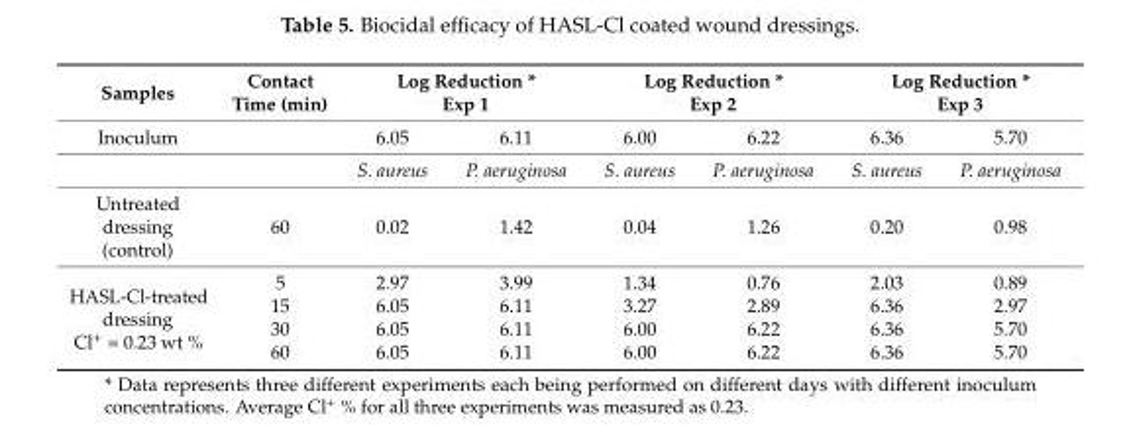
<table><thead><tr><td rowspan="2">Samples Inoculum</td><td rowspan="2">Contact Time (min)</td><td colspan="2">Log Reduction * Exp 1</td><td colspan="2">Log Reduction * Exp 2</td><td colspan="2">Log Reduction * Exp 3</td></tr><tr><td>6.05</td><td>6.11</td><td>6.00</td><td>6.22</td><td>6.36</td><td>5.70</td></tr></thead><tbody><tr><td></td><td></td><td>S. aureus</td><td>P. aeruginosa</td><td>S. aureus</td><td>P. aeruginosa</td><td>S. aureus</td><td>P. aeruginosa</td></tr><tr><td>Untreated dressing (control)</td><td>60</td><td>0.02</td><td>1.42</td><td>0.04</td><td>1.26</td><td>0.20</td><td>0.98</td></tr><tr><td rowspan="4">HASL-Cl-treated dressing Cl+ = 0.23 wt %</td><td>5</td><td>2.97</td><td>3.99</td><td>1.34</td><td>0.76</td><td>2.03</td><td>0.89</td></tr><tr><td>15</td><td>6.05</td><td>6.11</td><td>3.27</td><td>2.89</td><td>6.36</td><td>2.97</td></tr><tr><td>30</td><td>6.05</td><td>6.11</td><td>6.00</td><td>6.22</td><td>6.36</td><td>5.70</td></tr><tr><td>60</td><td>6.05</td><td>6.11</td><td>6.00</td><td>6.22</td><td>6.36</td><td>5.70</td></tr></tbody></table>